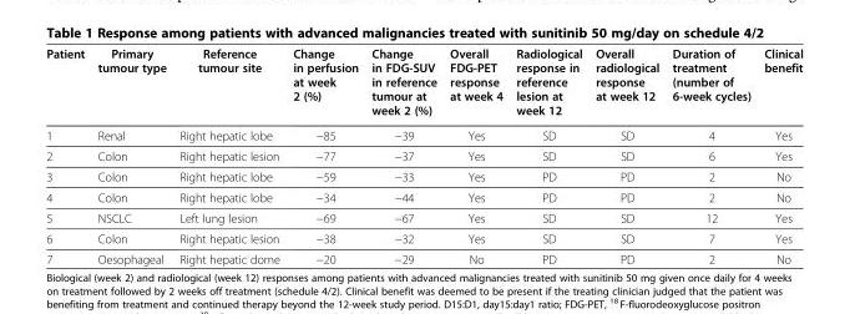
<table><thead><tr><td>Patient</td><td>Primary tumour type</td><td>Reference tumour site</td><td>Change in perfusion at week 2 (%)</td><td>Change in FDG-SUV in reference tumour at week 2 (%)</td><td>Overall FDG-PET response at week 4</td><td>Radiological response in reference lesion at week 12</td><td>Overall radiological response at week 12</td><td>Duration of treatment (number of 6-week cycles)</td><td>Clinical benefit</td></tr></thead><tbody><tr><td>1</td><td>Renal</td><td>Right hepatic lobe</td><td>−85</td><td>−39</td><td>Yes</td><td>SD</td><td>SD</td><td>4</td><td>Yes</td></tr><tr><td>2</td><td>Colon</td><td>Right hepatic lesion</td><td>−77</td><td>−37</td><td>Yes</td><td>SD</td><td>SD</td><td>6</td><td>Yes</td></tr><tr><td>3</td><td>Colon</td><td>Right hepatic lobe</td><td>−59</td><td>−33</td><td>Yes</td><td>PD</td><td>PD</td><td>2</td><td>No</td></tr><tr><td>4</td><td>Colon</td><td>Right hepatic lobe</td><td>−34</td><td>−44</td><td>Yes</td><td>PD</td><td>PD</td><td>2</td><td>No</td></tr><tr><td>5</td><td>NSCLC</td><td>Left lung lesion</td><td>−69</td><td>−67</td><td>Yes</td><td>SD</td><td>SD</td><td>12</td><td>Yes</td></tr><tr><td>6</td><td>Colon</td><td>Right hepatic lesion</td><td>−38</td><td>−32</td><td>Yes</td><td>SD</td><td>SD</td><td>7</td><td>Yes</td></tr><tr><td>7</td><td>Oesophageal</td><td>Right hepatic dome</td><td>−20</td><td>−29</td><td>No</td><td>PD</td><td>PD</td><td>2</td><td>No</td></tr></tbody></table>